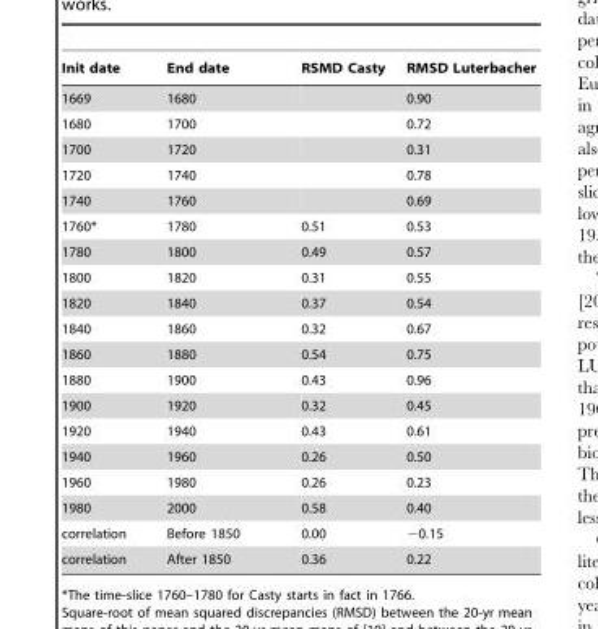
<table><thead><tr><td>Init date</td><td>End date</td><td>RSMD Casty</td><td>RMSD Luterbacher</td></tr></thead><tbody><tr><td>1669</td><td>1680</td><td></td><td>0.90</td></tr><tr><td>1680</td><td>1700</td><td></td><td>0.72</td></tr><tr><td>1700</td><td>1720</td><td></td><td>0.31</td></tr><tr><td>1720</td><td>1740</td><td></td><td>0.78</td></tr><tr><td>1740</td><td>1760</td><td></td><td>0.69</td></tr><tr><td>1760*</td><td>1780</td><td>0.51</td><td>0.53</td></tr><tr><td>1780</td><td>1800</td><td>0.49</td><td>0.57</td></tr><tr><td>1800</td><td>1820</td><td>0.31</td><td>0.55</td></tr><tr><td>1820</td><td>1840</td><td>0.37</td><td>0.54</td></tr><tr><td>1840</td><td>1860</td><td>0.32</td><td>0.67</td></tr><tr><td>1860</td><td>1880</td><td>0.54</td><td>0.75</td></tr><tr><td>1880</td><td>1900</td><td>0.43</td><td>0.96</td></tr><tr><td>1900</td><td>1920</td><td>0.32</td><td>0.45</td></tr><tr><td>1920</td><td>1940</td><td>0.43</td><td>0.61</td></tr><tr><td>1940</td><td>1960</td><td>0.26</td><td>0.50</td></tr><tr><td>1960</td><td>1980</td><td>0.26</td><td>0.23</td></tr><tr><td>1980</td><td>2000</td><td>0.58</td><td>0.40</td></tr><tr><td>correlation</td><td>Before 1850</td><td>0.00</td><td>−0.15</td></tr><tr><td>correlation</td><td>After 1850</td><td>0.36</td><td>0.22</td></tr></tbody></table>